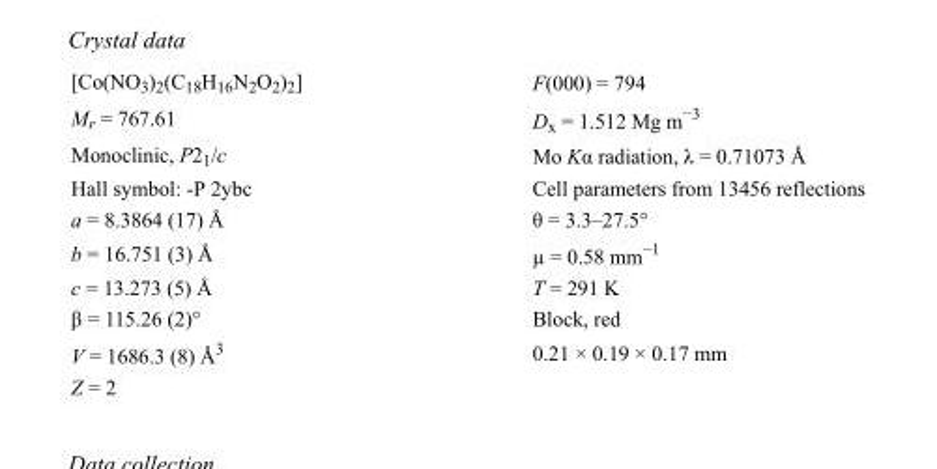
<table><tbody><tr><td>[Co(NO<sub>3</sub>)<sub>2</sub>(C<sub>18</sub>H<sub>16</sub>N<sub>2</sub>O<sub>2</sub>)<sub>2</sub>]</td><td>F(000) = 794</td></tr><tr><td>M<sub>r</sub> = 767.61</td><td>D<sub>x</sub> = 1.512 Mg m<sup>−3</sup></td></tr><tr><td>Monoclinic, P2<sub>1</sub>/c</td><td>Mo Kα radiation, λ = 0.71073 Å</td></tr><tr><td>Hall symbol: -P 2ybc</td><td>Cell parameters from 13456 reflections</td></tr><tr><td>a = 8.3864 (17) Å</td><td>θ = 3.3–27.5°</td></tr><tr><td>b = 16.751 (3) Å</td><td>µ = 0.58 mm<sup>−1</sup></td></tr><tr><td>c = 13.273 (5) Å</td><td>T = 291 K</td></tr><tr><td>β = 115.26 (2)°</td><td>Block, red</td></tr><tr><td>V = 1686.3 (8) Å<sup>3</sup></td><td>0.21 × 0.19 × 0.17 mm</td></tr><tr><td>Z = 2</td><td></td></tr></tbody></table>